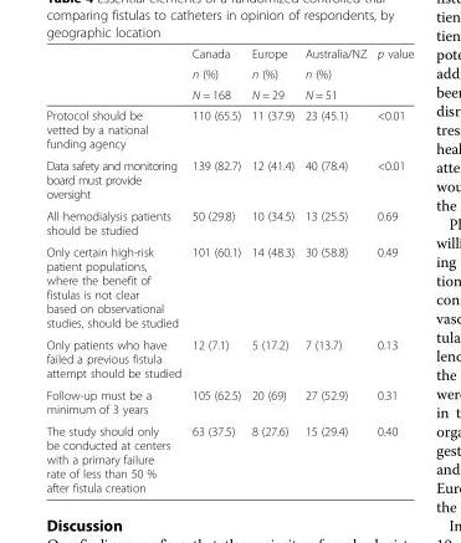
<table><thead><tr><td rowspan="3"></td><td rowspan="3">Canada n (%) N = 168</td><td rowspan="3">Europe n (%) N = 29</td><td rowspan="3">Australia/NZ n (%) N = 51</td><td rowspan="3">p value</td></tr><tr></tr><tr></tr></thead><tbody><tr><td>Protocol should be vetted by a national funding agency</td><td>110 (65.5)</td><td>11 (37.9)</td><td>23 (45.1)</td><td>&lt;0.01</td></tr><tr><td>Data safety and monitoring board must provide oversight</td><td>139 (82.7)</td><td>12 (41.4)</td><td>40 (78.4)</td><td>&lt;0.01</td></tr><tr><td>All hemodialysis patients should be studied</td><td>50 (29.8)</td><td>10 (34.5)</td><td>13 (25.5)</td><td>0.69</td></tr><tr><td>Only certain high-risk patient populations, where the benefit of fistulas is not clear based on observational studies, should be studied</td><td>101 (60.1)</td><td>14 (48.3)</td><td>30 (58.8)</td><td>0.49</td></tr><tr><td>Only patients who have failed a previous fistula attempt should be studied</td><td>12 (7.1)</td><td>5 (17.2)</td><td>7 (13.7)</td><td>0.13</td></tr><tr><td>Follow-up must be a minimum of 3 years</td><td>105 (62.5)</td><td>20 (69)</td><td>27 (52.9)</td><td>0.31</td></tr><tr><td>The study should only be conducted at centers with a primary failure rate of less than 50 % after fistula creation</td><td>63 (37.5)</td><td>8 (27.6)</td><td>15 (29.4)</td><td>0.40</td></tr></tbody></table>